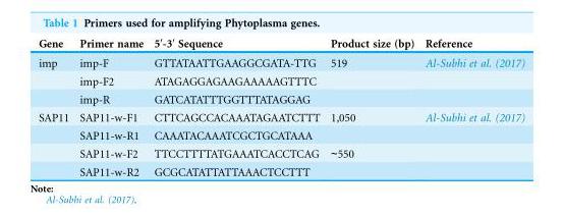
<table><thead><tr><td>Gene</td><td>Primer name</td><td>5′-3′ Sequence</td><td>Product size (bp)</td><td>Reference</td></tr></thead><tbody><tr><td rowspan="3">imp</td><td>imp-F</td><td>GTTATAATTGAAGGCGATA-TTG</td><td>519</td><td>Al-Subhi et al. (2017)</td></tr><tr><td>imp-F2</td><td>ATAGAGGAGAAGAAAAAGTTTC</td><td></td><td></td></tr><tr><td>imp-R</td><td>GATCATATTTGGTTTATAGGAG</td><td></td><td></td></tr><tr><td rowspan="4">SAP11</td><td>SAP11-w-F1</td><td>CTTCAGCCACAAATAGAATCTTT</td><td>1,050</td><td>Al-Subhi et al. (2017)</td></tr><tr><td>SAP11-w-R1</td><td>CAAATACAAATCGCTGCATAAA</td><td></td><td></td></tr><tr><td>SAP11-w-F2</td><td>TTCCTTTTATGAAATCACCTCAG</td><td>∼550</td><td></td></tr><tr><td>SAP11-w-R2</td><td>GCGCATATTATTAAACTCCTTT</td><td></td><td></td></tr></tbody></table>